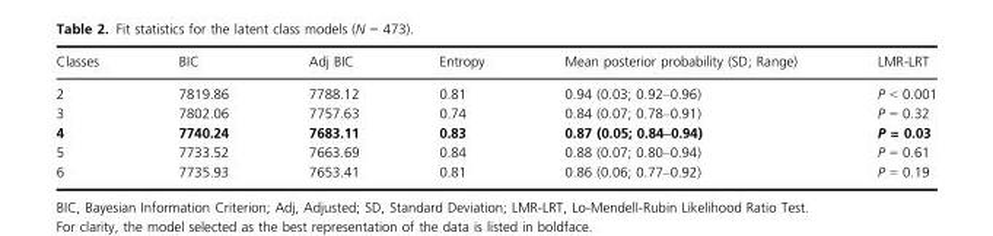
<table><thead><tr><td>Classes</td><td>BIC</td><td>Adj BIC</td><td>Entropy</td><td>Mean posterior probability (SD; Range)</td><td>LMR-LRT</td></tr></thead><tbody><tr><td>2</td><td>7819.86</td><td>7788.12</td><td>0.81</td><td>0.94 (0.03; 0.92–0.96)</td><td>P &lt; 0.001</td></tr><tr><td>3</td><td>7802.06</td><td>7757.63</td><td>0.74</td><td>0.84 (0.07; 0.78–0.91)</td><td>P = 0.32</td></tr><tr><td>4</td><td>7740.24</td><td>7683.11</td><td>0.83</td><td>0.87 (0.05; 0.84–0.94)</td><td>P = 0.03</td></tr><tr><td>5</td><td>7733.52</td><td>7663.69</td><td>0.84</td><td>0.88 (0.07; 0.80–0.94)</td><td>P = 0.61</td></tr><tr><td>6</td><td>7735.93</td><td>7653.41</td><td>0.81</td><td>0.86 (0.06; 0.77–0.92)</td><td>P = 0.19</td></tr></tbody></table>